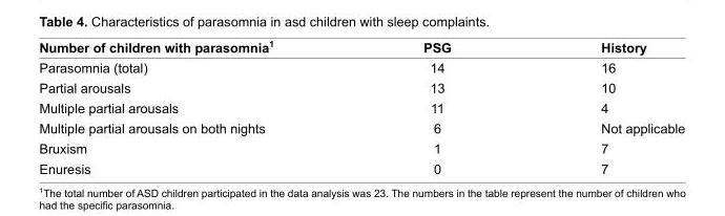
<table><thead><tr><td>Number of children with parasomnia<sup>1</sup></td><td>PSG</td><td>History</td></tr></thead><tbody><tr><td>Parasomnia (total)</td><td>14</td><td>16</td></tr><tr><td>Partial arousals</td><td>13</td><td>10</td></tr><tr><td>Multiple partial arousals</td><td>11</td><td>4</td></tr><tr><td>Multiple partial arousals on both nights</td><td>6</td><td>Not applicable</td></tr><tr><td>Bruxism</td><td>1</td><td>7</td></tr><tr><td>Enuresis</td><td>0</td><td>7</td></tr></tbody></table>